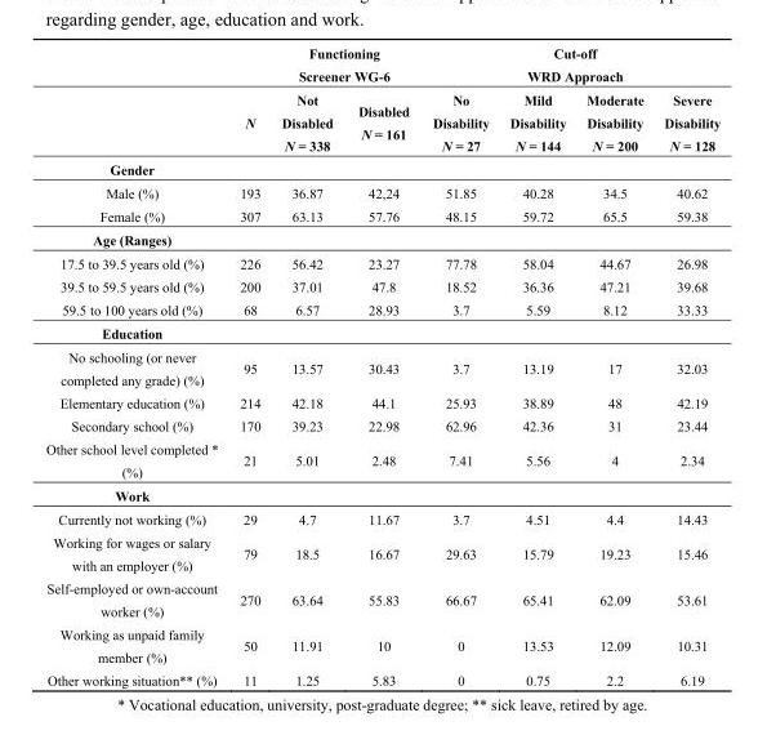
<table><thead><tr><td rowspan="2"></td><td rowspan="2">N</td><td colspan="2">Functioning Screener WG-6</td><td colspan="4">Cut-off WRD Approach</td></tr><tr><td>Not Disabled N = 338</td><td>Disabled N = 161</td><td>No Disability N = 27</td><td>Mild Disability N = 144</td><td>Moderate Disability N = 200</td><td>Severe Disability N = 128</td></tr></thead><tbody><tr><td colspan="8">Gender</td></tr><tr><td>Male (%)</td><td>193</td><td>36.87</td><td>42,24</td><td>51.85</td><td>40.28</td><td>34.5</td><td>40.62</td></tr><tr><td>Female (%)</td><td>307</td><td>63.13</td><td>57.76</td><td>48.15</td><td>59.72</td><td>65.5</td><td>59.38</td></tr><tr><td colspan="8">Age (Ranges)</td></tr><tr><td>17.5 to 39.5 years old (%)</td><td>226</td><td>56.42</td><td>23.27</td><td>77.78</td><td>58.04</td><td>44.67</td><td>26.98</td></tr><tr><td>39.5 to 59.5 years old (%)</td><td>200</td><td>37.01</td><td>47.8</td><td>18.52</td><td>36.36</td><td>47.21</td><td>39.68</td></tr><tr><td>59.5 to 100 years old (%)</td><td>68</td><td>6.57</td><td>28.93</td><td>3.7</td><td>5.59</td><td>8.12</td><td>33.33</td></tr><tr><td colspan="8">Education</td></tr><tr><td>No schooling (or never completed any grade) (%)</td><td>95</td><td>13.57</td><td>30.43</td><td>3.7</td><td>13.19</td><td>17</td><td>32.03</td></tr><tr><td>Elementary education (%)</td><td>214</td><td>42.18</td><td>44.1</td><td>25.93</td><td>38.89</td><td>48</td><td>42.19</td></tr><tr><td>Secondary school (%)</td><td>170</td><td>39.23</td><td>22.98</td><td>62.96</td><td>42.36</td><td>31</td><td>23.44</td></tr><tr><td>Other school level completed * (%)</td><td>21</td><td>5.01</td><td>2.48</td><td>7.41</td><td>5.56</td><td>4</td><td>2.34</td></tr><tr><td colspan="8">Work</td></tr><tr><td>Currently not working (%)</td><td>29</td><td>4.7</td><td>11.67</td><td>3.7</td><td>4.51</td><td>4.4</td><td>14.43</td></tr><tr><td>Working for wages or salary with an employer (%)</td><td>79</td><td>18.5</td><td>16.67</td><td>29.63</td><td>15.79</td><td>19.23</td><td>15.46</td></tr><tr><td>Self-employed or own-account worker (%)</td><td>270</td><td>63.64</td><td>55.83</td><td>66.67</td><td>65.41</td><td>62.09</td><td>53.61</td></tr><tr><td>Working as unpaid family member (%)</td><td>50</td><td>11.91</td><td>10</td><td>0</td><td>13.53</td><td>12.09</td><td>10.31</td></tr><tr><td>Other working situation** (%)</td><td>11</td><td>1.25</td><td>5.83</td><td>0</td><td>0.75</td><td>2.2</td><td>6.19</td></tr></tbody></table>